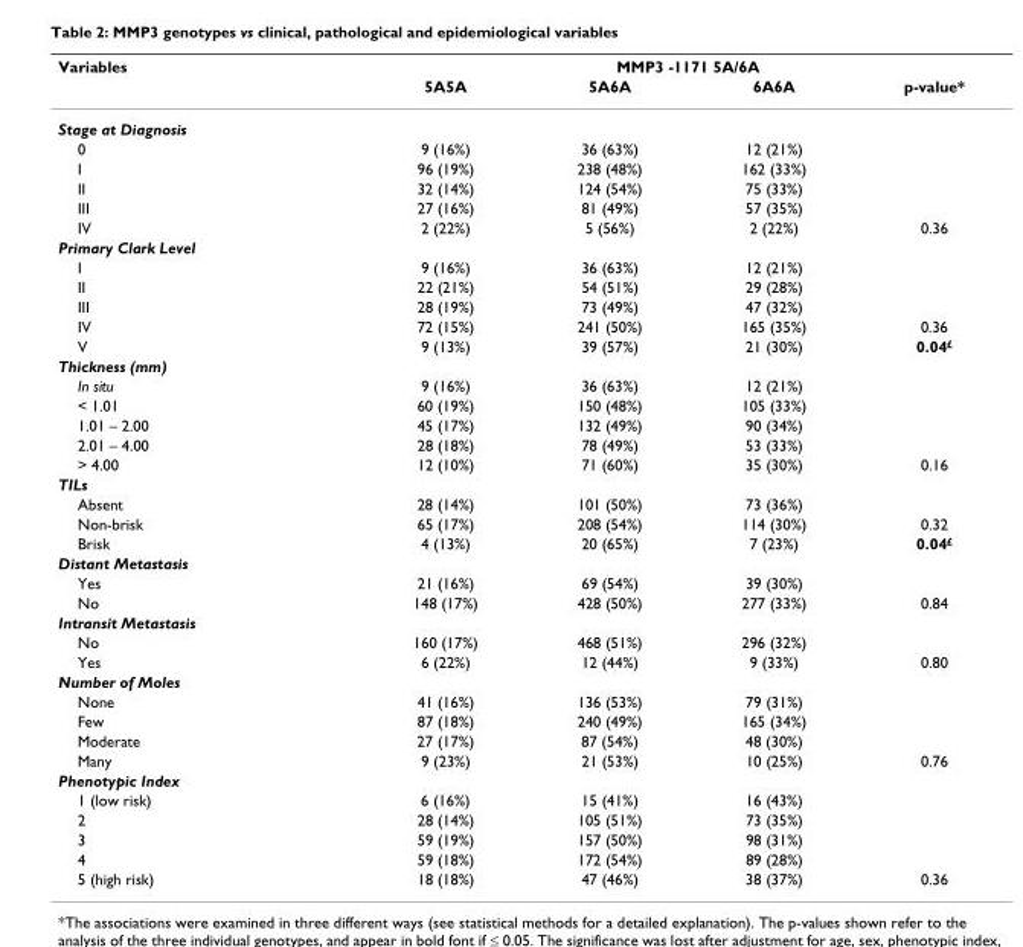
<table><thead><tr><td rowspan="2">Variables</td><td colspan="4">MMP3 -1171 5A/6A</td></tr><tr><td>5A5A</td><td>5A6A</td><td>6A6A</td><td>p-value*</td></tr></thead><tbody><tr><td colspan="5">Stage at Diagnosis</td></tr><tr><td>0</td><td>9 (16%)</td><td>36 (63%)</td><td>12 (21%)</td><td></td></tr><tr><td>I</td><td>96 (19%)</td><td>238 (48%)</td><td>162 (33%)</td><td></td></tr><tr><td>II</td><td>32 (14%)</td><td>124 (54%)</td><td>75 (33%)</td><td></td></tr><tr><td>III</td><td>27 (16%)</td><td>81 (49%)</td><td>57 (35%)</td><td></td></tr><tr><td>IV</td><td>2 (22%)</td><td>5 (56%)</td><td>2 (22%)</td><td>0.36</td></tr><tr><td colspan="5">Primary Clark Level</td></tr><tr><td>I</td><td>9 (16%)</td><td>36 (63%)</td><td>12 (21%)</td><td></td></tr><tr><td>II</td><td>22 (21%)</td><td>54 (51%)</td><td>29 (28%)</td><td></td></tr><tr><td>III</td><td>28 (19%)</td><td>73 (49%)</td><td>47 (32%)</td><td></td></tr><tr><td>IV</td><td>72 (15%)</td><td>241 (50%)</td><td>165 (35%)</td><td>0.36</td></tr><tr><td>V</td><td>9 (13%)</td><td>39 (57%)</td><td>21 (30%)</td><td>0.04<sup>£</sup></td></tr><tr><td colspan="5">Thickness (mm)</td></tr><tr><td>In situ</td><td>9 (16%)</td><td>36 (63%)</td><td>12 (21%)</td><td></td></tr><tr><td>&lt; 1.01</td><td>60 (19%)</td><td>150 (48%)</td><td>105 (33%)</td><td></td></tr><tr><td>1.01 – 2.00</td><td>45 (17%)</td><td>132 (49%)</td><td>90 (34%)</td><td></td></tr><tr><td>2.01 – 4.00</td><td>28 (18%)</td><td>78 (49%)</td><td>53 (33%)</td><td></td></tr><tr><td>&gt; 4.00</td><td>12 (10%)</td><td>71 (60%)</td><td>35 (30%)</td><td>0.16</td></tr><tr><td colspan="5">TILs</td></tr><tr><td>Absent</td><td>28 (14%)</td><td>101 (50%)</td><td>73 (36%)</td><td></td></tr><tr><td>Non-brisk</td><td>65 (17%)</td><td>208 (54%)</td><td>114 (30%)</td><td>0.32</td></tr><tr><td>Brisk</td><td>4 (13%)</td><td>20 (65%)</td><td>7 (23%)</td><td>0.04<sup>£</sup></td></tr><tr><td colspan="5">Distant Metastasis</td></tr><tr><td>Yes</td><td>21 (16%)</td><td>69 (54%)</td><td>39 (30%)</td><td></td></tr><tr><td>No</td><td>148 (17%)</td><td>428 (50%)</td><td>277 (33%)</td><td>0.84</td></tr><tr><td colspan="5">Intransit Metastasis</td></tr><tr><td>No</td><td>160 (17%)</td><td>468 (51%)</td><td>296 (32%)</td><td></td></tr><tr><td>Yes</td><td>6 (22%)</td><td>12 (44%)</td><td>9 (33%)</td><td>0.80</td></tr><tr><td colspan="5">Number of Moles</td></tr><tr><td>None</td><td>41 (16%)</td><td>136 (53%)</td><td>79 (31%)</td><td></td></tr><tr><td>Few</td><td>87 (18%)</td><td>240 (49%)</td><td>165 (34%)</td><td></td></tr><tr><td>Moderate</td><td>27 (17%)</td><td>87 (54%)</td><td>48 (30%)</td><td></td></tr><tr><td>Many</td><td>9 (23%)</td><td>21 (53%)</td><td>10 (25%)</td><td>0.76</td></tr><tr><td colspan="5">Phenotypic Index</td></tr><tr><td>1 (low risk)</td><td>6 (16%)</td><td>15 (41%)</td><td>16 (43%)</td><td></td></tr><tr><td>2</td><td>28 (14%)</td><td>105 (51%)</td><td>73 (35%)</td><td></td></tr><tr><td>3</td><td>59 (19%)</td><td>157 (50%)</td><td>98 (31%)</td><td></td></tr><tr><td>4</td><td>59 (18%)</td><td>172 (54%)</td><td>89 (28%)</td><td></td></tr><tr><td>5 (high risk)</td><td>18 (18%)</td><td>47 (46%)</td><td>38 (37%)</td><td>0.36</td></tr></tbody></table>